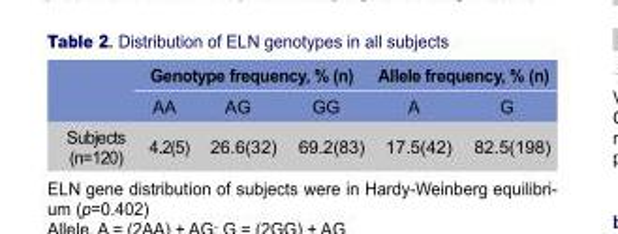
<table><thead><tr><td rowspan="2"></td><td colspan="3">Genotype frequency, % (n)</td><td colspan="2">Allele frequency, % (n)</td></tr><tr><td>AA</td><td>AG</td><td>GG</td><td>A</td><td>G</td></tr></thead><tbody><tr><td>Subjects (n=120)</td><td>4.2(5)</td><td>26.6(32)</td><td>69.2(83)</td><td>17.5(42)</td><td>82.5(198)</td></tr></tbody></table>